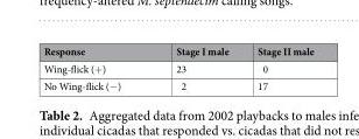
<table><thead><tr><td>Response</td><td>Stage I male</td><td>Stage II male</td></tr></thead><tbody><tr><td>Wing-flick (+)</td><td>23</td><td>0</td></tr><tr><td>No Wing-flick (−)</td><td>2</td><td>17</td></tr></tbody></table>